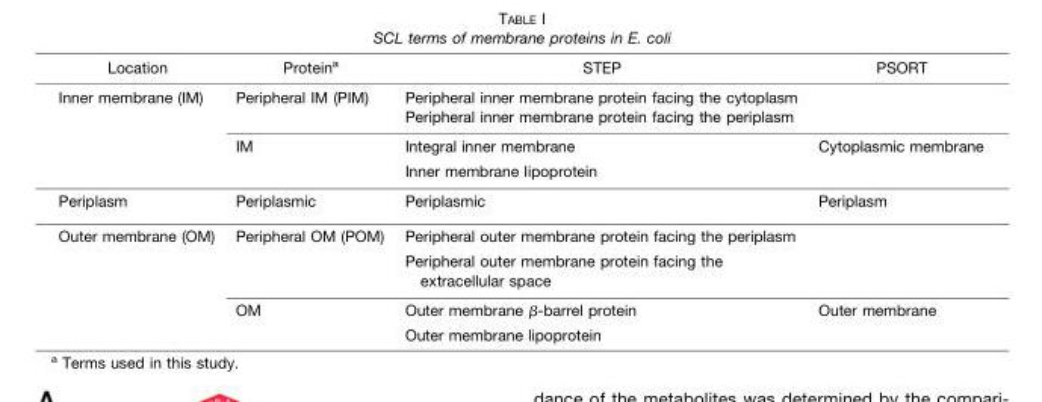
<table><thead><tr><td>Location</td><td>Protein<sup>a</sup></td><td>STEP</td><td>PSORT</td></tr></thead><tbody><tr><td rowspan="4">Inner membrane (IM)</td><td>Peripheral IM (PIM)</td><td>Peripheral inner membrane protein facing the cytoplasm</td><td></td></tr><tr><td></td><td>Peripheral inner membrane protein facing the periplasm</td><td></td></tr><tr><td>IM</td><td>Integral inner membrane</td><td>Cytoplasmic membrane</td></tr><tr><td></td><td>Inner membrane lipoprotein</td><td></td></tr><tr><td>Periplasm</td><td>Periplasmic</td><td>Periplasmic</td><td>Periplasm</td></tr><tr><td rowspan="4">Outer membrane (OM)</td><td>Peripheral OM (POM)</td><td>Peripheral outer membrane protein facing the periplasm</td><td></td></tr><tr><td></td><td>Peripheral outer membrane protein facing the extracellular space</td><td></td></tr><tr><td>OM</td><td>Outer membrane β-barrel protein</td><td>Outer membrane</td></tr><tr><td></td><td>Outer membrane lipoprotein</td><td></td></tr></tbody></table>